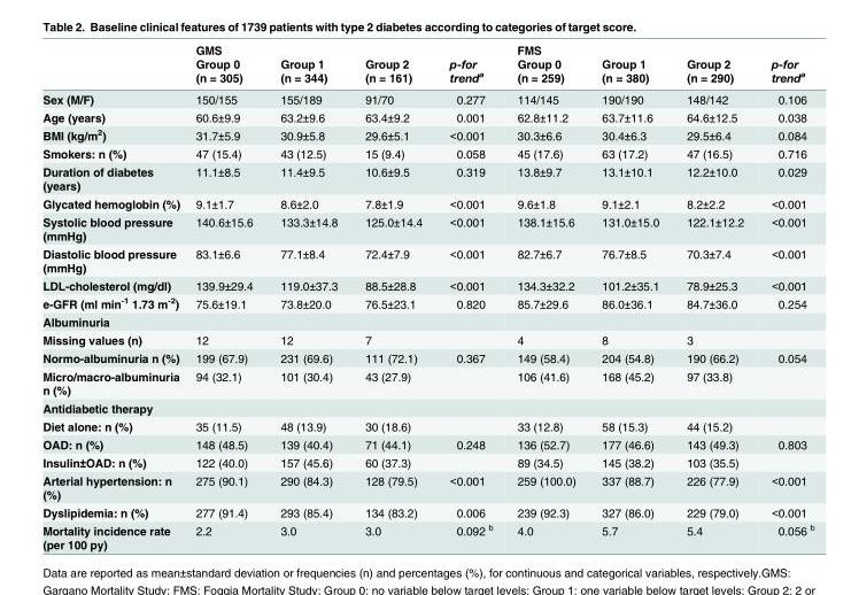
<table><thead><tr><td rowspan="2"></td><td rowspan="2">GMS Group 0 (n = 305)</td><td rowspan="2">Group 1 (n = 344)</td><td rowspan="2">Group 2 (n = 161)</td><td rowspan="2">p-for trend<sup>a</sup></td><td rowspan="2">FMS Group 0 (n = 259)</td><td rowspan="2">Group 1 (n = 380)</td><td rowspan="2">Group 2 (n = 290)</td><td rowspan="2">p-for trend<sup>a</sup></td></tr><tr></tr></thead><tbody><tr><td>Sex (M/F)</td><td>150/155</td><td>155/189</td><td>91/70</td><td>0.277</td><td>114/145</td><td>190/190</td><td>148/142</td><td>0.106</td></tr><tr><td>Age (years)</td><td>60.6±9.9</td><td>63.2±9.6</td><td>63.4±9.2</td><td>0.001</td><td>62.8±11.2</td><td>63.7±11.6</td><td>64.6±12.5</td><td>0.038</td></tr><tr><td>BMI (kg/m<sup>2</sup>)</td><td>31.7±5.9</td><td>30.9±5.8</td><td>29.6±5.1</td><td>&lt;0.001</td><td>30.3±6.6</td><td>30.4±6.3</td><td>29.5±6.4</td><td>0.084</td></tr><tr><td>Smokers: n (%)</td><td>47 (15.4)</td><td>43 (12.5)</td><td>15 (9.4)</td><td>0.058</td><td>45 (17.6)</td><td>63 (17.2)</td><td>47 (16.5)</td><td>0.716</td></tr><tr><td>Duration of diabetes (years)</td><td>11.1±8.5</td><td>11.4±9.5</td><td>10.6±9.5</td><td>0.319</td><td>13.8±9.7</td><td>13.1±10.1</td><td>12.2±10.0</td><td>0.029</td></tr><tr><td>Glycated hemoglobin (%)</td><td>9.1±1.7</td><td>8.6±2.0</td><td>7.8±1.9</td><td>&lt;0.001</td><td>9.6±1.8</td><td>9.1±2.1</td><td>8.2±2.2</td><td>&lt;0.001</td></tr><tr><td>Systolic blood pressure (mmHg)</td><td>140.6±15.6</td><td>133.3±14.8</td><td>125.0±14.4</td><td>&lt;0.001</td><td>138.1±15.6</td><td>131.0±15.0</td><td>122.1±12.2</td><td>&lt;0.001</td></tr><tr><td>Diastolic blood pressure (mmHg)</td><td>83.1±6.6</td><td>77.1±8.4</td><td>72.4±7.9</td><td>&lt;0.001</td><td>82.7±6.7</td><td>76.7±8.5</td><td>70.3±7.4</td><td>&lt;0.001</td></tr><tr><td>LDL-cholesterol (mg/dl)</td><td>139.9±29.4</td><td>119.0±37.3</td><td>88.5±28.8</td><td>&lt;0.001</td><td>134.3±32.2</td><td>101.2±35.1</td><td>78.9±25.3</td><td>&lt;0.001</td></tr><tr><td>e-GFR (ml min<sup>-1</sup> 1.73 m<sup>-2</sup>)</td><td>75.6±19.1</td><td>73.8±20.0</td><td>76.5±23.1</td><td>0.820</td><td>85.7±29.6</td><td>86.0±36.1</td><td>84.7±36.0</td><td>0.254</td></tr><tr><td colspan="9">Albuminuria</td></tr><tr><td>Missing values (n)</td><td>12</td><td>12</td><td>7</td><td></td><td>4</td><td>8</td><td>3</td><td></td></tr><tr><td>Normo-albuminuria n (%)</td><td>199 (67.9)</td><td>231 (69.6)</td><td>111 (72.1)</td><td>0.367</td><td>149 (58.4)</td><td>204 (54.8)</td><td>190 (66.2)</td><td>0.054</td></tr><tr><td>Micro/macro-albuminuria n (%)</td><td>94 (32.1)</td><td>101 (30.4)</td><td>43 (27.9)</td><td></td><td>106 (41.6)</td><td>168 (45.2)</td><td>97 (33.8)</td><td></td></tr><tr><td colspan="9">Antidiabetic therapy</td></tr><tr><td>Diet alone: n (%)</td><td>35 (11.5)</td><td>48 (13.9)</td><td>30 (18.6)</td><td></td><td>33 (12.8)</td><td>58 (15.3)</td><td>44 (15.2)</td><td></td></tr><tr><td>OAD: n (%)</td><td>148 (48.5)</td><td>139 (40.4)</td><td>71 (44.1)</td><td>0.248</td><td>136 (52.7)</td><td>177 (46.6)</td><td>143 (49.3)</td><td>0.803</td></tr><tr><td>Insulin±OAD: n (%)</td><td>122 (40.0)</td><td>157 (45.6)</td><td>60 (37.3)</td><td></td><td>89 (34.5)</td><td>145 (38.2)</td><td>103 (35.5)</td><td></td></tr><tr><td>Arterial hypertension: n (%)</td><td>275 (90.1)</td><td>290 (84.3)</td><td>128 (79.5)</td><td>&lt;0.001</td><td>259 (100.0)</td><td>337 (88.7)</td><td>226 (77.9)</td><td>&lt;0.001</td></tr><tr><td>Dyslipidemia: n (%)</td><td>277 (91.4)</td><td>293 (85.4)</td><td>134 (83.2)</td><td>0.006</td><td>239 (92.3)</td><td>327 (86.0)</td><td>229 (79.0)</td><td>&lt;0.001</td></tr><tr><td>Mortality incidence rate (per 100 py)</td><td>2.2</td><td>3.0</td><td>3.0</td><td>0.092 <sup>b</sup></td><td>4.0</td><td>5.7</td><td>5.4</td><td>0.056</td></tr></tbody></table>